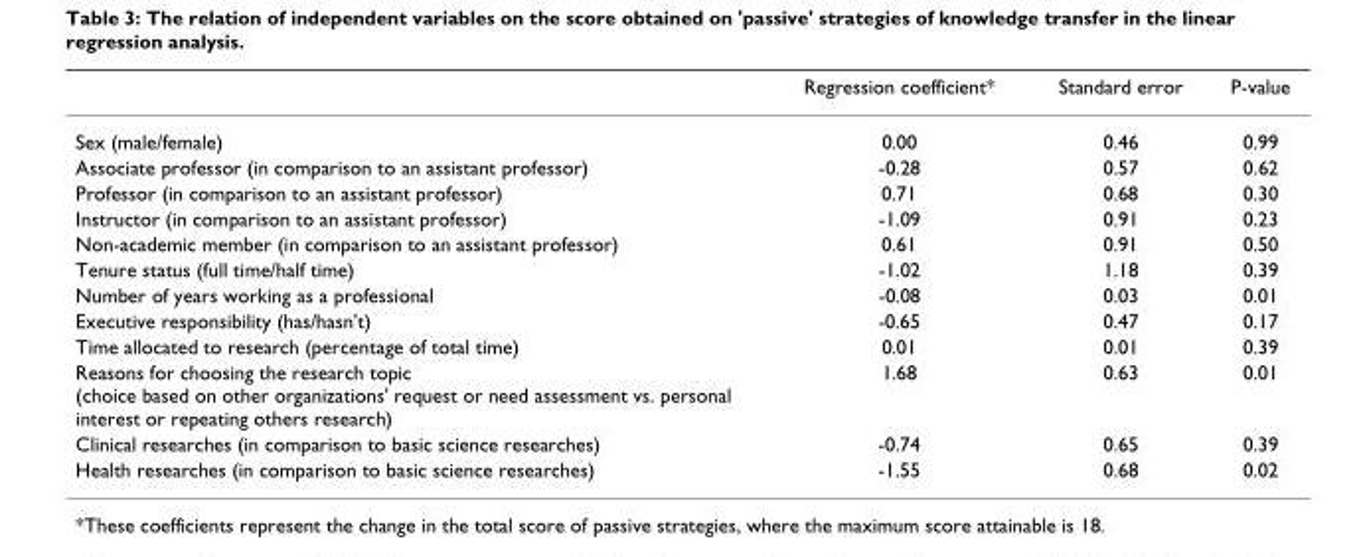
<table><thead><tr><td></td><td>Regression coefficient*</td><td>Standard error</td><td>P-value</td></tr></thead><tbody><tr><td>Sex (male/female)</td><td>0.00</td><td>0.46</td><td>0.99</td></tr><tr><td>Associate professor (in comparison to an assistant professor)</td><td>-0.28</td><td>0.57</td><td>0.62</td></tr><tr><td>Professor (in comparison to an assistant professor)</td><td>0.71</td><td>0.68</td><td>0.30</td></tr><tr><td>Instructor (in comparison to an assistant professor)</td><td>-1.09</td><td>0.91</td><td>0.23</td></tr><tr><td>Non-academic member (in comparison to an assistant professor)</td><td>0.61</td><td>0.91</td><td>0.50</td></tr><tr><td>Tenure status (full time/half time)</td><td>-1.02</td><td>1.18</td><td>0.39</td></tr><tr><td>Number of years working as a professional</td><td>-0.08</td><td>0.03</td><td>0.01</td></tr><tr><td>Executive responsibility (has/hasn&#x27;t)</td><td>-0.65</td><td>0.47</td><td>0.17</td></tr><tr><td>Time allocated to research (percentage of total time)</td><td>0.01</td><td>0.01</td><td>0.39</td></tr><tr><td>Reasons for choosing the research topic (choice based on other organizations&#x27; request or need assessment vs. personal interest or repeating others research)</td><td>1.68</td><td>0.63</td><td>0.01</td></tr><tr><td>Clinical researches (in comparison to basic science researches)</td><td>-0.74</td><td>0.65</td><td>0.39</td></tr><tr><td>Health researches (in comparison to basic science researches)</td><td>-1.55</td><td>0.68</td><td>0.02</td></tr></tbody></table>